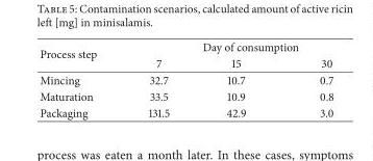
<table><thead><tr><td rowspan="2">Process step</td><td colspan="3">Day of consumption</td></tr><tr><td>7</td><td>15</td><td>30</td></tr></thead><tbody><tr><td>Mincing</td><td>32.7</td><td>10.7</td><td>0.7</td></tr><tr><td>Maturation</td><td>33.5</td><td>10.9</td><td>0.8</td></tr><tr><td>Packaging</td><td>131.5</td><td>42.9</td><td>3.0</td></tr></tbody></table>